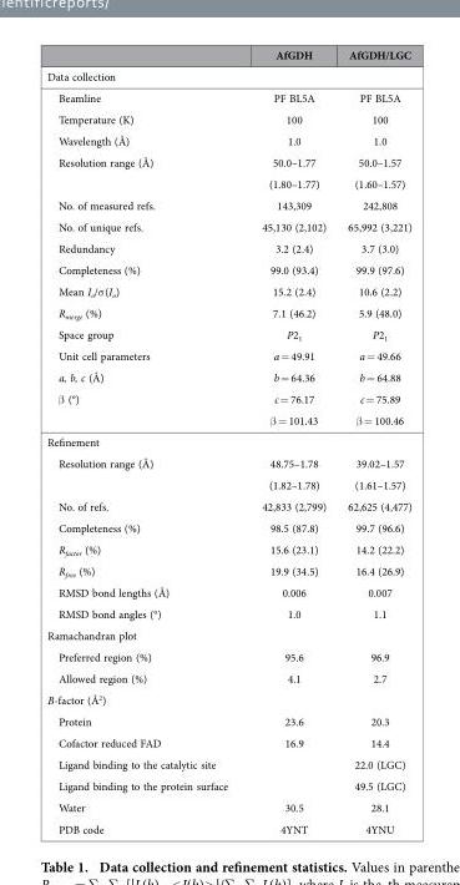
<table><thead><tr><td></td><td>AfGDH</td><td>AfGDH/LGC</td></tr></thead><tbody><tr><td colspan="3">Data collection</td></tr><tr><td>Beamline</td><td>PF BL5A</td><td>PF BL5A</td></tr><tr><td>Temperature (K)</td><td>100</td><td>100</td></tr><tr><td>Wavelength (Å)</td><td>1.0</td><td>1.0</td></tr><tr><td rowspan="2">Resolution range (Å)</td><td>50.0–1.77</td><td>50.0–1.57</td></tr><tr><td>(1.80–1.77)</td><td>(1.60–1.57)</td></tr><tr><td>No. of measured refs.</td><td>143,309</td><td>242,808</td></tr><tr><td>No. of unique refs.</td><td>45,130 (2,102)</td><td>65,992 (3,221)</td></tr><tr><td>Redundancy</td><td>3.2 (2.4)</td><td>3.7 (3.0)</td></tr><tr><td>Completeness (%)</td><td>99.0 (93.4)</td><td>99.9 (97.6)</td></tr><tr><td>Mean I<sub>o</sub>/σ (I<sub>o</sub>)</td><td>15.2 (2.4)</td><td>10.6 (2.2)</td></tr><tr><td>R<sub>merge</sub> (%)</td><td>7.1 (46.2)</td><td>5.9 (48.0)</td></tr><tr><td>Space group</td><td>P2<sub>1</sub></td><td>P2<sub>1</sub></td></tr><tr><td>Unit cell parameters</td><td>a = 49.91</td><td>a = 49.66</td></tr><tr><td>a, b, c (Å)</td><td>b = 64.36</td><td>b = 64.88</td></tr><tr><td rowspan="2">β (°)</td><td>c = 76.17</td><td>c = 75.89</td></tr><tr><td>β = 101.43</td><td>β = 100.46</td></tr><tr><td colspan="3">Refinement</td></tr><tr><td rowspan="2">Resolution range (Å)</td><td>48.75–1.78</td><td>39.02–1.57</td></tr><tr><td>(1.82–1.78)</td><td>(1.61–1.57)</td></tr><tr><td>No. of refs.</td><td>42,833 (2,799)</td><td>62,625 (4,477)</td></tr><tr><td>Completeness (%)</td><td>98.5 (87.8)</td><td>99.7 (96.6)</td></tr><tr><td>R<sub>factor</sub> (%)</td><td>15.6 (23.1)</td><td>14.2 (22.2)</td></tr><tr><td>R<sub>free</sub> (%)</td><td>19.9 (34.5)</td><td>16.4 (26.9)</td></tr><tr><td>RMSD bond lengths (Å)</td><td>0.006</td><td>0.007</td></tr><tr><td>RMSD bond angles (°)</td><td>1.0</td><td>1.1</td></tr><tr><td colspan="3">Ramachandran plot</td></tr><tr><td>Preferred region (%)</td><td>95.6</td><td>96.9</td></tr><tr><td>Allowed region (%)</td><td>4.1</td><td>2.7</td></tr><tr><td colspan="3">B-factor (Å<sup>2</sup>)</td></tr><tr><td>Protein</td><td>23.6</td><td>20.3</td></tr><tr><td>Cofactor reduced FAD</td><td>16.9</td><td>14.4</td></tr><tr><td>Ligand binding to the catalytic site</td><td></td><td>22.0 (LGC)</td></tr><tr><td>Ligand binding to the protein surface</td><td></td><td>49.5 (LGC)</td></tr><tr><td>Water</td><td>30.5</td><td>28.1</td></tr><tr><td>PDB code</td><td>4YNT</td><td>4YNU</td></tr></tbody></table>